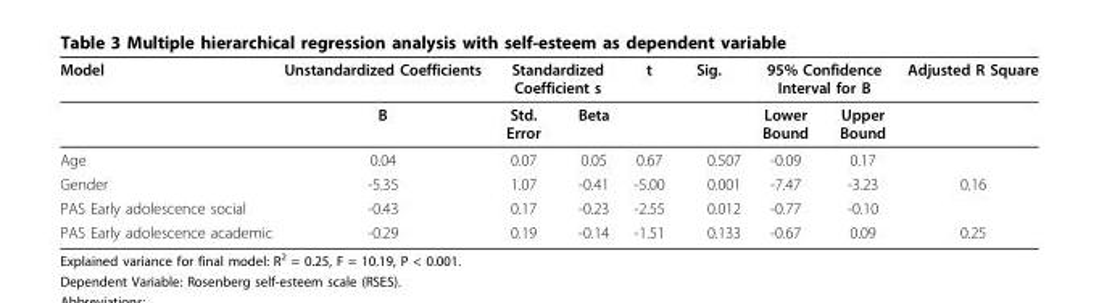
<table><thead><tr><td rowspan="2">Model</td><td rowspan="2">Unstandardized Coefficients B</td><td colspan="2">Standardized Coefficient s</td><td rowspan="2">t</td><td rowspan="2">Sig.</td><td colspan="2">95% Confidence Interval for B</td><td rowspan="2">Adjusted R Square</td></tr><tr><td>Std. Error</td><td>Beta</td><td>Lower Bound</td><td>Upper Bound</td></tr></thead><tbody><tr><td>Age</td><td>0.04</td><td>0.07</td><td>0.05</td><td>0.67</td><td>0.507</td><td>-0.09</td><td>0.17</td><td></td></tr><tr><td>Gender</td><td>-5.35</td><td>1.07</td><td>-0.41</td><td>-5.00</td><td>0.001</td><td>-7.47</td><td>-3.23</td><td>0.16</td></tr><tr><td>PAS Early adolescence social</td><td>-0.43</td><td>0.17</td><td>-0.23</td><td>-2.55</td><td>0.012</td><td>-0.77</td><td>-0.10</td><td></td></tr><tr><td>PAS Early adolescence academic</td><td>-0.29</td><td>0.19</td><td>-0.14</td><td>-1.51</td><td>0.133</td><td>-0.67</td><td>0.09</td><td>0.25</td></tr></tbody></table>